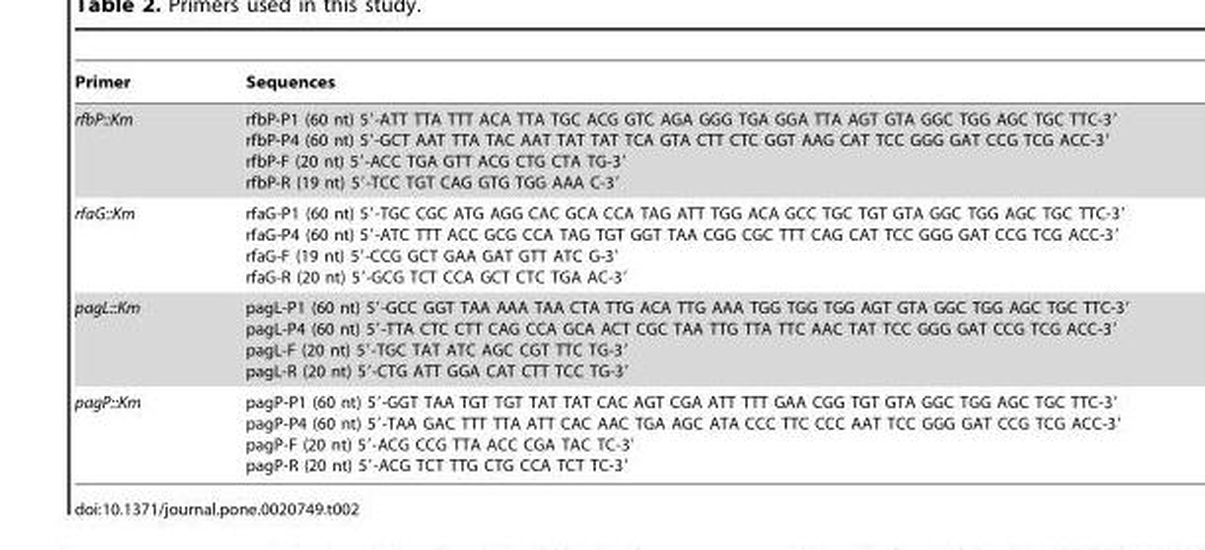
<table><thead><tr><td>Primer</td><td>Sequences</td></tr></thead><tbody><tr><td>rfbP::Km</td><td>rfbP-P1 (60 nt) 5′-ATT TTA TTT ACA TTA TGC ACG GTC AGA GGG TGA GGA TTA AGT GTA GGC TGG AGC TGC TTC-3′ rfbP-P4 (60 nt) 5′-GCT AAT TTA TAC AAT TAT TAT TCA GTA CTT CTC GGT AAG CAT TCC GGG GAT CCG TCG ACC-3′ rfbP-F (20 nt) 5′-ACC TGA GTT ACG CTG CTA TG-3′ rfbP-R (19 nt) 5′-TCC TGT CAG GTG TGG AAA C-3′</td></tr><tr><td>rfaG::Km</td><td>rfaG-P1 (60 nt) 5′-TGC CGC ATG AGG CAC GCA CCA TAG ATT TGG ACA GCC TGC TGT GTA GGC TGG AGC TGC TTC-3′ rfaG-P4 (60 nt) 5′-ATC TTT ACC GCG CCA TAG TGT GGT TAA CGG CGC TTT CAG CAT TCC GGG GAT CCG TCG ACC-3′ rfaG-F (19 nt) 5′-CCG GCT GAA GAT GTT ATC G-3′ rfaG-R (20 nt) 5′-GCG TCT CCA GCT CTC TGA AC-3′</td></tr><tr><td>pagL::Km</td><td>pagL-P1 (60 nt) 5′-GCC GGT TAA AAA TAA CTA TTG ACA TTG AAA TGG TGG TGG AGT GTA GGC TGG AGC TGC TTC-3′ pagL-P4 (60 nt) 5′-TTA CTC CTT CAG CCA GCA ACT CGC TAA TTG TTA TTC AAC TAT TCC GGG GAT CCG TCG ACC-3′ pagL-F (20 nt) 5′-TGC TAT ATC AGC CGT TTC TG-3′ pagL-R (20 nt) 5′-CTG ATT GGA CAT CTT TCC TG-3′</td></tr><tr><td>pagP::Km</td><td>pagP-P1 (60 nt) 5′-GGT TAA TGT TGT TAT TAT CAC AGT CGA ATT TTT GAA CGG TGT GTA GGC TGG AGC TGC TTC-3′ pagP-P4 (60 nt) 5′-TAA GAC TTT TTA ATT CAC AAC TGA AGC ATA CCC TTC CCC AAT TCC GGG GAT CCG TCG ACC-3′ pagP-F (20 nt) 5′-ACG CCG TTA ACC CGA TAC TC-3′ pagP-R (20 nt) 5′-ACG TCT TTG CTG CCA TCT TC-3′</td></tr></tbody></table>